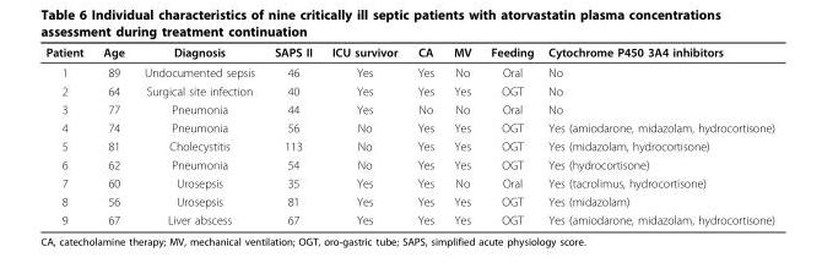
<table><thead><tr><td>Patient</td><td>Age</td><td>Diagnosis</td><td>SAPS II</td><td>ICU survivor</td><td>CA</td><td>MV</td><td>Feeding</td><td>Cytochrome P450 3A4 inhibitors</td></tr></thead><tbody><tr><td>1</td><td>89</td><td>Undocumented sepsis</td><td>46</td><td>Yes</td><td>Yes</td><td>No</td><td>Oral</td><td>No</td></tr><tr><td>2</td><td>64</td><td>Surgical site infection</td><td>40</td><td>Yes</td><td>Yes</td><td>Yes</td><td>OGT</td><td>No</td></tr><tr><td>3</td><td>77</td><td>Pneumonia</td><td>44</td><td>Yes</td><td>No</td><td>No</td><td>Oral</td><td>No</td></tr><tr><td>4</td><td>74</td><td>Pneumonia</td><td>56</td><td>No</td><td>Yes</td><td>Yes</td><td>OGT</td><td>Yes (amiodarone, midazolam, hydrocortisone)</td></tr><tr><td>5</td><td>81</td><td>Cholecystitis</td><td>113</td><td>No</td><td>Yes</td><td>Yes</td><td>OGT</td><td>Yes (midazolam, hydrocortisone)</td></tr><tr><td>6</td><td>62</td><td>Pneumonia</td><td>54</td><td>No</td><td>Yes</td><td>Yes</td><td>OGT</td><td>Yes (hydrocortisone)</td></tr><tr><td>7</td><td>60</td><td>Urosepsis</td><td>35</td><td>Yes</td><td>Yes</td><td>No</td><td>Oral</td><td>Yes (tacrolimus, hydrocortisone)</td></tr><tr><td>8</td><td>56</td><td>Urosepsis</td><td>81</td><td>Yes</td><td>Yes</td><td>Yes</td><td>OGT</td><td>Yes (midazolam)</td></tr><tr><td>9</td><td>67</td><td>Liver abscess</td><td>67</td><td>Yes</td><td>Yes</td><td>Yes</td><td>OGT</td><td>Yes (amiodarone, midazolam, hydrocortisone)</td></tr></tbody></table>